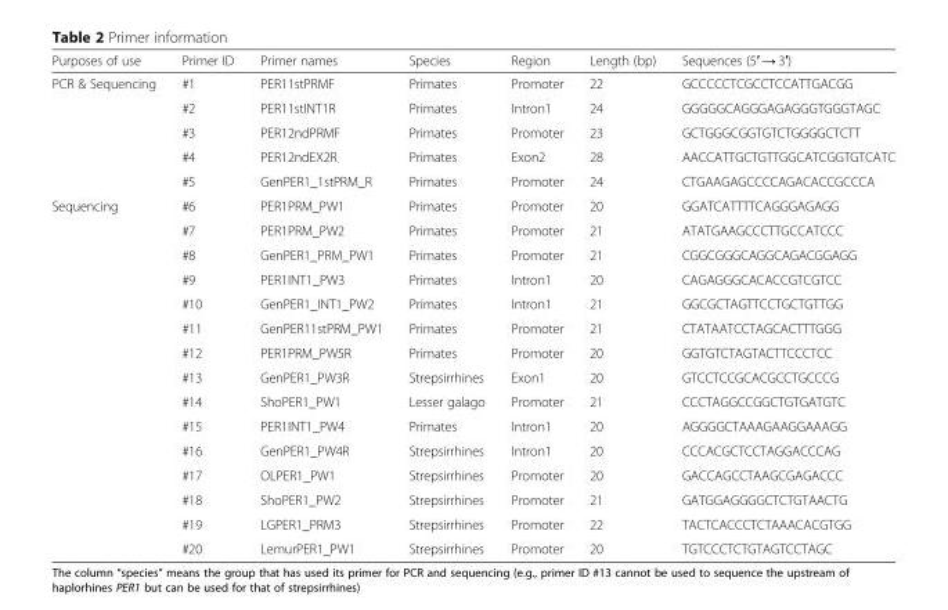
<table><thead><tr><td>Purposes of use</td><td>Primer ID</td><td>Primer names</td><td>Species</td><td>Region</td><td>Length (bp)</td><td>Sequences (5′ → 3′)</td></tr></thead><tbody><tr><td rowspan="5">PCR &amp; Sequencing</td><td>#1</td><td>PER11stPRMF</td><td>Primates</td><td>Promoter</td><td>22</td><td>GCCCCCTCGCCTCCATTGACGG</td></tr><tr><td>#2</td><td>PER11stINT1R</td><td>Primates</td><td>Intron1</td><td>24</td><td>GGGGGCAGGGAGAGGGTGGGTAGC</td></tr><tr><td>#3</td><td>PER12ndPRMF</td><td>Primates</td><td>Promoter</td><td>23</td><td>GCTGGGCGGTGTCTGGGGCTCTT</td></tr><tr><td>#4</td><td>PER12ndEX2R</td><td>Primates</td><td>Exon2</td><td>28</td><td>AACCATTGCTGTTGGCATCGGTGTCATC</td></tr><tr><td>#5</td><td>GenPER1_1stPRM_R</td><td>Primates</td><td>Promoter</td><td>24</td><td>CTGAAGAGCCCCAGACACCGCCCA</td></tr><tr><td rowspan="15">Sequencing</td><td>#6</td><td>PER1PRM_PW1</td><td>Primates</td><td>Promoter</td><td>20</td><td>GGATCATTTTCAGGGAGAGG</td></tr><tr><td>#7</td><td>PER1PRM_PW2</td><td>Primates</td><td>Promoter</td><td>21</td><td>ATATGAAGCCCTTGCCATCCC</td></tr><tr><td>#8</td><td>GenPER1_PRM_PW1</td><td>Primates</td><td>Promoter</td><td>21</td><td>CGGCGGGCAGGCAGACGGAGG</td></tr><tr><td>#9</td><td>PER1INT1_PW3</td><td>Primates</td><td>Intron1</td><td>20</td><td>CAGAGGGCACACCGTCGTCC</td></tr><tr><td>#10</td><td>GenPER1_INT1_PW2</td><td>Primates</td><td>Intron1</td><td>21</td><td>GGCGCTAGTTCCTGCTGTTGG</td></tr><tr><td>#11</td><td>GenPER11stPRM_PW1</td><td>Primates</td><td>Promoter</td><td>21</td><td>CTATAATCCTAGCACTTTGGG</td></tr><tr><td>#12</td><td>PER1PRM_PW5R</td><td>Primates</td><td>Promoter</td><td>20</td><td>GGTGTCTAGTACTTCCCTCC</td></tr><tr><td>#13</td><td>GenPER1_PW3R</td><td>Strepsirrhines</td><td>Exon1</td><td>20</td><td>GTCCTCCGCACGCCTGCCCG</td></tr><tr><td>#14</td><td>ShoPER1_PW1</td><td>Lesser galago</td><td>Promoter</td><td>21</td><td>CCCTAGGCCGGCTGTGATGTC</td></tr><tr><td>#15</td><td>PER1INT1_PW4</td><td>Primates</td><td>Intron1</td><td>20</td><td>AGGGGCTAAAGAAGGAAAGG</td></tr><tr><td>#16</td><td>GenPER1_PW4R</td><td>Strepsirrhines</td><td>Intron1</td><td>20</td><td>CCCACGCTCCTAGGACCCAG</td></tr><tr><td>#17</td><td>OLPER1_PW1</td><td>Strepsirrhines</td><td>Promoter</td><td>20</td><td>GACCAGCCTAAGCGAGACCC</td></tr><tr><td>#18</td><td>ShoPER1_PW2</td><td>Strepsirrhines</td><td>Promoter</td><td>21</td><td>GATGGAGGGGCTCTGTAACTG</td></tr><tr><td>#19</td><td>LGPER1_PRM3</td><td>Strepsirrhines</td><td>Promoter</td><td>22</td><td>TACTCACCCTCTAAACACGTGG</td></tr><tr><td>#20</td><td>LemurPER1_PW1</td><td>Strepsirrhines</td><td>Promoter</td><td>20</td><td>TGTCCCTCTGTAGTCCTAGC</td></tr></tbody></table>